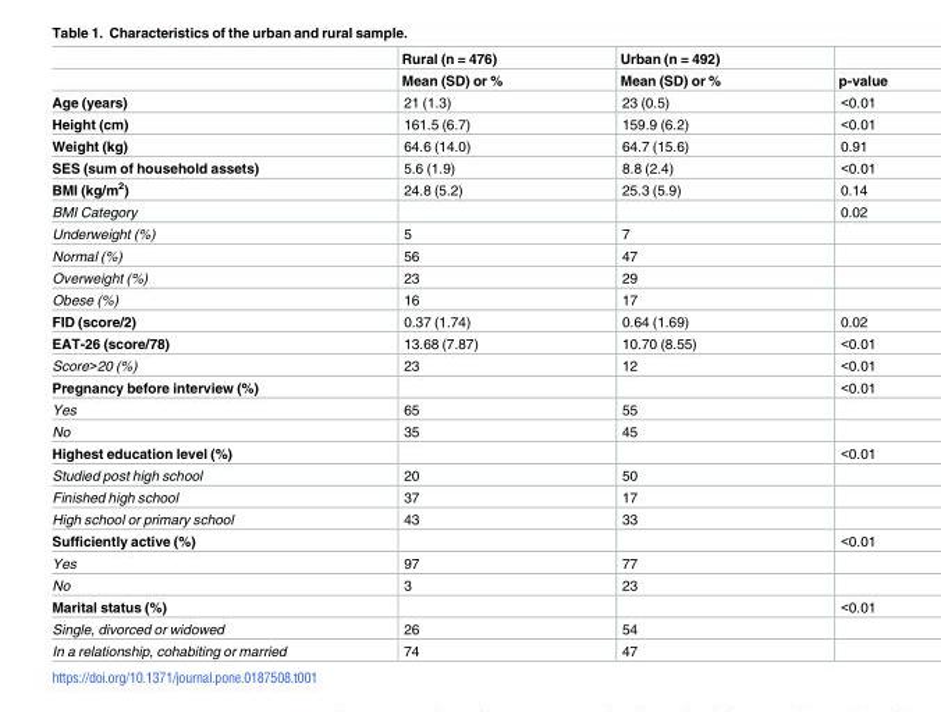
<table><thead><tr><td rowspan="2"></td><td rowspan="2">Rural (n = 476) Mean (SD) or %</td><td rowspan="2">Urban (n = 492) Mean (SD) or %</td><td rowspan="2">p-value</td></tr><tr></tr></thead><tbody><tr><td>Age (years)</td><td>21 (1.3)</td><td>23 (0.5)</td><td>&lt;0.01</td></tr><tr><td>Height (cm)</td><td>161.5 (6.7)</td><td>159.9 (6.2)</td><td>&lt;0.01</td></tr><tr><td>Weight (kg)</td><td>64.6 (14.0)</td><td>64.7 (15.6)</td><td>0.91</td></tr><tr><td>SES (sum of household assets)</td><td>5.6 (1.9)</td><td>8.8 (2.4)</td><td>&lt;0.01</td></tr><tr><td>BMI (kg/m<sup>2</sup>)</td><td>24.8 (5.2)</td><td>25.3 (5.9)</td><td>0.14</td></tr><tr><td>BMI Category</td><td></td><td></td><td>0.02</td></tr><tr><td>Underweight (%)</td><td>5</td><td>7</td><td></td></tr><tr><td>Normal (%)</td><td>56</td><td>47</td><td></td></tr><tr><td>Overweight (%)</td><td>23</td><td>29</td><td></td></tr><tr><td>Obese (%)</td><td>16</td><td>17</td><td></td></tr><tr><td>FID (score/2)</td><td>0.37 (1.74)</td><td>0.64 (1.69)</td><td>0.02</td></tr><tr><td>EAT-26 (score/78)</td><td>13.68 (7.87)</td><td>10.70 (8.55)</td><td>&lt;0.01</td></tr><tr><td>Score&gt;20 (%)</td><td>23</td><td>12</td><td>&lt;0.01</td></tr><tr><td>Pregnancy before interview (%)</td><td></td><td></td><td>&lt;0.01</td></tr><tr><td>Yes</td><td>65</td><td>55</td><td></td></tr><tr><td>No</td><td>35</td><td>45</td><td></td></tr><tr><td>Highest education level (%)</td><td></td><td></td><td>&lt;0.01</td></tr><tr><td>Studied post high school</td><td>20</td><td>50</td><td></td></tr><tr><td>Finished high school</td><td>37</td><td>17</td><td></td></tr><tr><td>High school or primary school</td><td>43</td><td>33</td><td></td></tr><tr><td>Sufficiently active (%)</td><td></td><td></td><td>&lt;0.01</td></tr><tr><td>Yes</td><td>97</td><td>77</td><td></td></tr><tr><td>No</td><td>3</td><td>23</td><td></td></tr><tr><td>Marital status (%)</td><td></td><td></td><td>&lt;0.01</td></tr><tr><td>Single, divorced or widowed</td><td>26</td><td>54</td><td></td></tr><tr><td>In a relationship, cohabiting or married</td><td>74</td><td>47</td><td></td></tr></tbody></table>